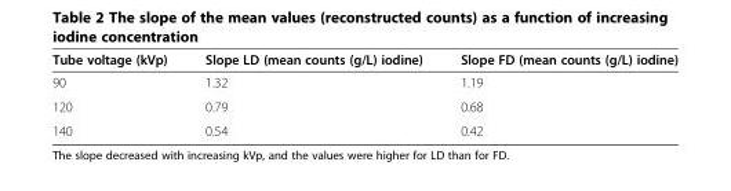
<table><thead><tr><td>Tube voltage (kVp)</td><td>Slope LD (mean counts (g/L) iodine)</td><td>Slope FD (mean counts (g/L) iodine)</td></tr></thead><tbody><tr><td>90</td><td>1.32</td><td>1.19</td></tr><tr><td>120</td><td>0.79</td><td>0.68</td></tr><tr><td>140</td><td>0.54</td><td>0.42</td></tr></tbody></table>